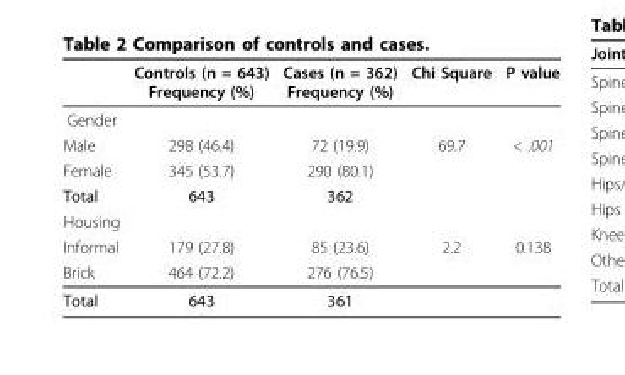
<table><thead><tr><td></td><td>Controls (n = 643) Frequency (%)</td><td>Cases (n = 362) Frequency (%)</td><td>Chi Square</td><td>P value</td></tr></thead><tbody><tr><td colspan="5">Gender</td></tr><tr><td>Male</td><td>298 (46.4)</td><td>72 (19.9)</td><td>69.7</td><td>&lt; .001</td></tr><tr><td>Female</td><td>345 (53.7)</td><td>290 (80.1)</td><td></td><td></td></tr><tr><td>Total</td><td>643</td><td>362</td><td></td><td></td></tr><tr><td colspan="5">Housing</td></tr><tr><td>Informal</td><td>179 (27.8)</td><td>85 (23.6)</td><td>2.2</td><td>0.138</td></tr><tr><td>Brick</td><td>464 (72.2)</td><td>276 (76.5)</td><td></td><td></td></tr><tr><td>Total</td><td>643</td><td>361</td><td></td><td></td></tr></tbody></table>